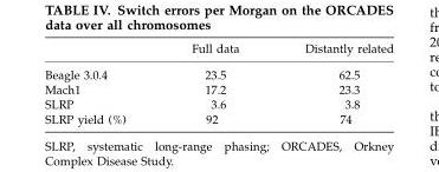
<table><thead><tr><td></td><td>Full data</td><td>Distantly related</td></tr></thead><tbody><tr><td>Beagle 3.0.4</td><td>23.5</td><td>62.5</td></tr><tr><td>Mach1</td><td>17.2</td><td>23.3</td></tr><tr><td>SLRP</td><td>3.6</td><td>3.8</td></tr><tr><td>SLRP yield (%)</td><td>92</td><td>74</td></tr></tbody></table>